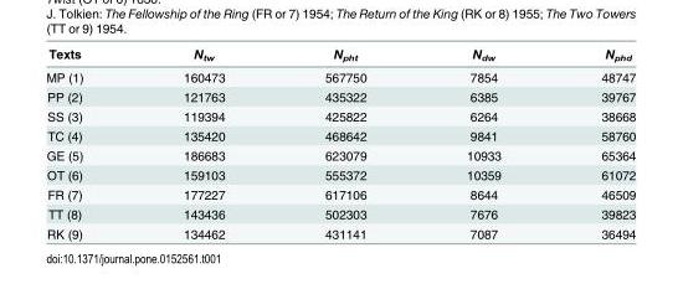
<table><thead><tr><td>Texts</td><td>N<sub>tw</sub></td><td>N<sub>pht</sub></td><td>N<sub>dw</sub></td><td>N<sub>phd</sub></td></tr></thead><tbody><tr><td>MP (1)</td><td>160473</td><td>567750</td><td>7854</td><td>48747</td></tr><tr><td>PP (2)</td><td>121763</td><td>435322</td><td>6385</td><td>39767</td></tr><tr><td>SS (3)</td><td>119394</td><td>425822</td><td>6264</td><td>38668</td></tr><tr><td>TC (4)</td><td>135420</td><td>468642</td><td>9841</td><td>58760</td></tr><tr><td>GE (5)</td><td>186683</td><td>623079</td><td>10933</td><td>65364</td></tr><tr><td>OT (6)</td><td>159103</td><td>555372</td><td>10359</td><td>61072</td></tr><tr><td>FR (7)</td><td>177227</td><td>617106</td><td>8644</td><td>46509</td></tr><tr><td>TT (8)</td><td>143436</td><td>502303</td><td>7676</td><td>39823</td></tr><tr><td>RK (9)</td><td>134462</td><td>431141</td><td>7087</td><td>36494</td></tr></tbody></table>